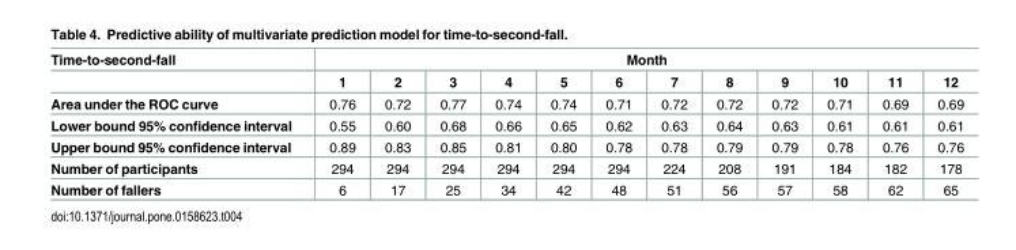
<table><thead><tr><td rowspan="2">Time-to-second-fall</td><td colspan="12">Month</td></tr><tr><td>1</td><td>2</td><td>3</td><td>4</td><td>5</td><td>6</td><td>7</td><td>8</td><td>9</td><td>10</td><td>11</td><td>12</td></tr></thead><tbody><tr><td>Area under the ROC curve</td><td>0.76</td><td>0.72</td><td>0.77</td><td>0.74</td><td>0.74</td><td>0.71</td><td>0.72</td><td>0.72</td><td>0.72</td><td>0.71</td><td>0.69</td><td>0.69</td></tr><tr><td>Lower bound 95% confidence interval</td><td>0.55</td><td>0.60</td><td>0.68</td><td>0.66</td><td>0.65</td><td>0.62</td><td>0.63</td><td>0.64</td><td>0.63</td><td>0.61</td><td>0.61</td><td>0.61</td></tr><tr><td>Upper bound 95% confidence interval</td><td>0.89</td><td>0.83</td><td>0.85</td><td>0.81</td><td>0.80</td><td>0.78</td><td>0.78</td><td>0.79</td><td>0.79</td><td>0.78</td><td>0.76</td><td>0.76</td></tr><tr><td>Number of participants</td><td>294</td><td>294</td><td>294</td><td>294</td><td>294</td><td>294</td><td>224</td><td>208</td><td>191</td><td>184</td><td>182</td><td>178</td></tr><tr><td>Number of fallers</td><td>6</td><td>17</td><td>25</td><td>34</td><td>42</td><td>48</td><td>51</td><td>56</td><td>57</td><td>58</td><td>62</td><td>65</td></tr></tbody></table>